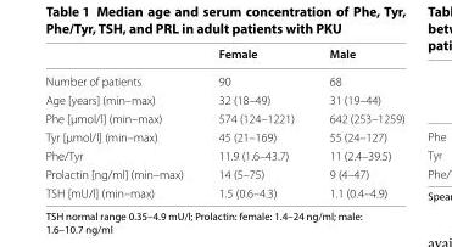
<table><thead><tr><td></td><td>Female</td><td>Male</td></tr></thead><tbody><tr><td>Number of patients</td><td>90</td><td>68</td></tr><tr><td>Age [years] (min–max)</td><td>32 (18–49)</td><td>31 (19–44)</td></tr><tr><td>Phe [μmol/l] (min–max)</td><td>574 (124–1221)</td><td>642 (253–1259)</td></tr><tr><td>Tyr [μmol/l] (min–max)</td><td>45 (21–169)</td><td>55 (24–127)</td></tr><tr><td>Phe/Tyr</td><td>11.9 (1.6–43.7)</td><td>11 (2.4–39.5)</td></tr><tr><td>Prolactin [ng/ml] (min–max)</td><td>14 (5–75)</td><td>9 (4–47)</td></tr><tr><td>TSH [mU/l] (min–max)</td><td>1.5 (0.6–4.3)</td><td>1.1 (0.4–4.9)</td></tr></tbody></table>